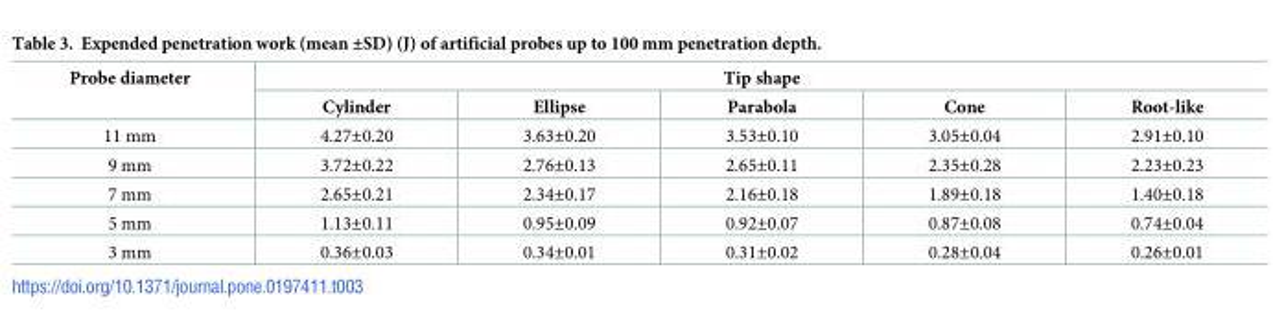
<table><thead><tr><td rowspan="2">Probe diameter</td><td colspan="5">Tip shape</td></tr><tr><td>Cylinder</td><td>Ellipse</td><td>Parabola</td><td>Cone</td><td>Root-like</td></tr></thead><tbody><tr><td>11 mm</td><td>4.27±0.20</td><td>3.63±0.20</td><td>3.53±0.10</td><td>3.05±0.04</td><td>2.91±0.10</td></tr><tr><td>9 mm</td><td>3.72±0.22</td><td>2.76±0.13</td><td>2.65±0.11</td><td>2.35±0.28</td><td>2.23±0.23</td></tr><tr><td>7 mm</td><td>2.65±0.21</td><td>2.34±0.17</td><td>2.16±0.18</td><td>1.89±0.18</td><td>1.40±0.18</td></tr><tr><td>5 mm</td><td>1.13±0.11</td><td>0.95±0.09</td><td>0.92±0.07</td><td>0.87±0.08</td><td>0.74±0.04</td></tr><tr><td>3 mm</td><td>0.36±0.03</td><td>0.34±0.01</td><td>0.31±0.02</td><td>0.28±0.04</td><td>0.26±0.01</td></tr></tbody></table>